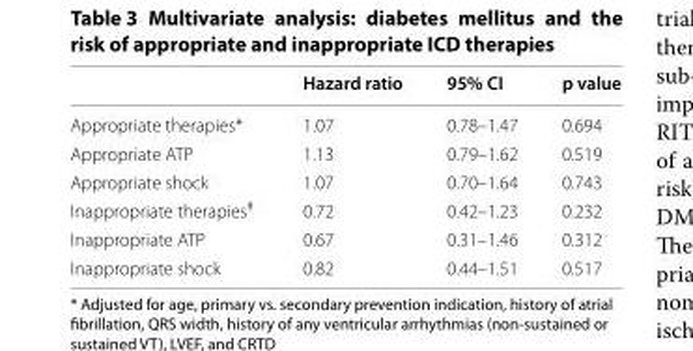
<table><thead><tr><td></td><td>Hazard ratio</td><td>95% CI</td><td>p value</td></tr></thead><tbody><tr><td>Appropriate therapies*</td><td>1.07</td><td>0.78–1.47</td><td>0.694</td></tr><tr><td>Appropriate ATP</td><td>1.13</td><td>0.79–1.62</td><td>0.519</td></tr><tr><td>Appropriate shock</td><td>1.07</td><td>0.70–1.64</td><td>0.743</td></tr><tr><td>Inappropriate therapies<sup>#</sup></td><td>0.72</td><td>0.42–1.23</td><td>0.232</td></tr><tr><td>Inappropriate ATP</td><td>0.67</td><td>0.31–1.46</td><td>0.312</td></tr><tr><td>Inappropriate shock</td><td>0.82</td><td>0.44–1.51</td><td>0.517</td></tr></tbody></table>